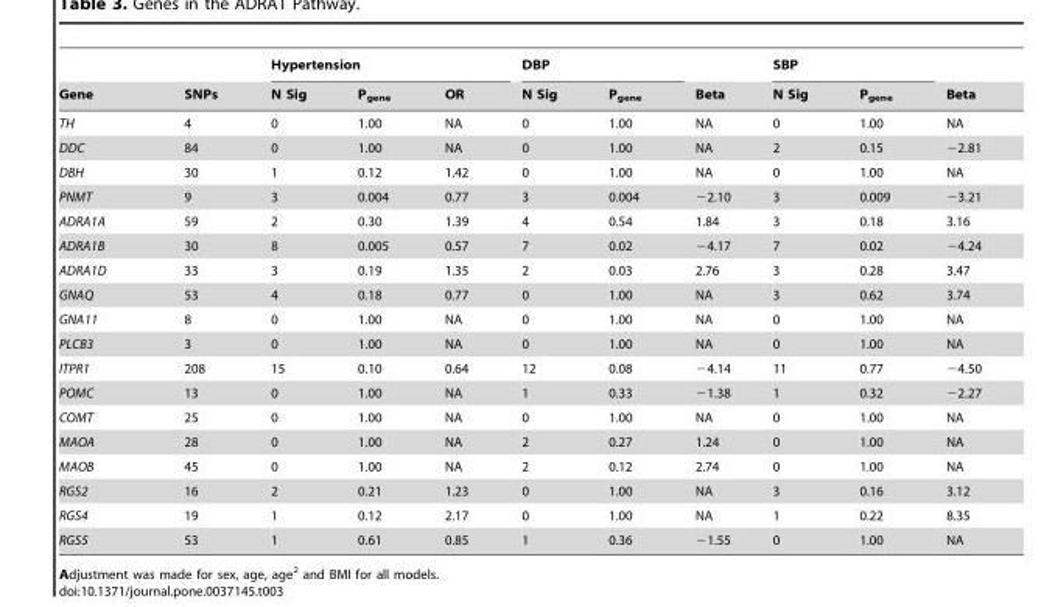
<table><thead><tr><td rowspan="2">Gene</td><td rowspan="2">SNPs</td><td colspan="3">Hypertension</td><td colspan="2">DBP</td><td rowspan="2">Beta</td><td colspan="2">SBP</td><td rowspan="2">Beta</td></tr><tr><td>N Sig</td><td>P<sub>gene</sub></td><td>OR</td><td>N Sig</td><td>P<sub>gene</sub></td><td>N Sig</td><td>P<sub>gene</sub></td></tr></thead><tbody><tr><td>TH</td><td>4</td><td>0</td><td>1.00</td><td>NA</td><td>0</td><td>1.00</td><td>NA</td><td>0</td><td>1.00</td><td>NA</td></tr><tr><td>DDC</td><td>84</td><td>0</td><td>1.00</td><td>NA</td><td>0</td><td>1.00</td><td>NA</td><td>2</td><td>0.15</td><td>−2.81</td></tr><tr><td>DBH</td><td>30</td><td>1</td><td>0.12</td><td>1.42</td><td>0</td><td>1.00</td><td>NA</td><td>0</td><td>1.00</td><td>NA</td></tr><tr><td>PNMT</td><td>9</td><td>3</td><td>0.004</td><td>0.77</td><td>3</td><td>0.004</td><td>−2.10</td><td>3</td><td>0.009</td><td>−3.21</td></tr><tr><td>ADRA1A</td><td>59</td><td>2</td><td>0.30</td><td>1.39</td><td>4</td><td>0.54</td><td>1.84</td><td>3</td><td>0.18</td><td>3.16</td></tr><tr><td>ADRA1B</td><td>30</td><td>8</td><td>0.005</td><td>0.57</td><td>7</td><td>0.02</td><td>−4.17</td><td>7</td><td>0.02</td><td>−4.24</td></tr><tr><td>ADRA1D</td><td>33</td><td>3</td><td>0.19</td><td>1.35</td><td>2</td><td>0.03</td><td>2.76</td><td>3</td><td>0.28</td><td>3.47</td></tr><tr><td>GNAQ</td><td>53</td><td>4</td><td>0.18</td><td>0.77</td><td>0</td><td>1.00</td><td>NA</td><td>3</td><td>0.62</td><td>3.74</td></tr><tr><td>GNA11</td><td>8</td><td>0</td><td>1.00</td><td>NA</td><td>0</td><td>1.00</td><td>NA</td><td>0</td><td>1.00</td><td>NA</td></tr><tr><td>PLCB3</td><td>3</td><td>0</td><td>1.00</td><td>NA</td><td>0</td><td>1.00</td><td>NA</td><td>0</td><td>1.00</td><td>NA</td></tr><tr><td>ITPR1</td><td>208</td><td>15</td><td>0.10</td><td>0.64</td><td>12</td><td>0.08</td><td>−4.14</td><td>11</td><td>0.77</td><td>−4.50</td></tr><tr><td>POMC</td><td>13</td><td>0</td><td>1.00</td><td>NA</td><td>1</td><td>0.33</td><td>−1.38</td><td>1</td><td>0.32</td><td>−2.27</td></tr><tr><td>COMT</td><td>25</td><td>0</td><td>1.00</td><td>NA</td><td>0</td><td>1.00</td><td>NA</td><td>0</td><td>1.00</td><td>NA</td></tr><tr><td>MAOA</td><td>28</td><td>0</td><td>1.00</td><td>NA</td><td>2</td><td>0.27</td><td>1.24</td><td>0</td><td>1.00</td><td>NA</td></tr><tr><td>MAOB</td><td>45</td><td>0</td><td>1.00</td><td>NA</td><td>2</td><td>0.12</td><td>2.74</td><td>0</td><td>1.00</td><td>NA</td></tr><tr><td>RGS2</td><td>16</td><td>2</td><td>0.21</td><td>1.23</td><td>0</td><td>1.00</td><td>NA</td><td>3</td><td>0.16</td><td>3.12</td></tr><tr><td>RGS4</td><td>19</td><td>1</td><td>0.12</td><td>2.17</td><td>0</td><td>1.00</td><td>NA</td><td>1</td><td>0.22</td><td>8.35</td></tr><tr><td>RGS5</td><td>53</td><td>1</td><td>0.61</td><td>0.85</td><td>1</td><td>0.36</td><td>−1.55</td><td>0</td><td>1.00</td><td>NA</td></tr></tbody></table>